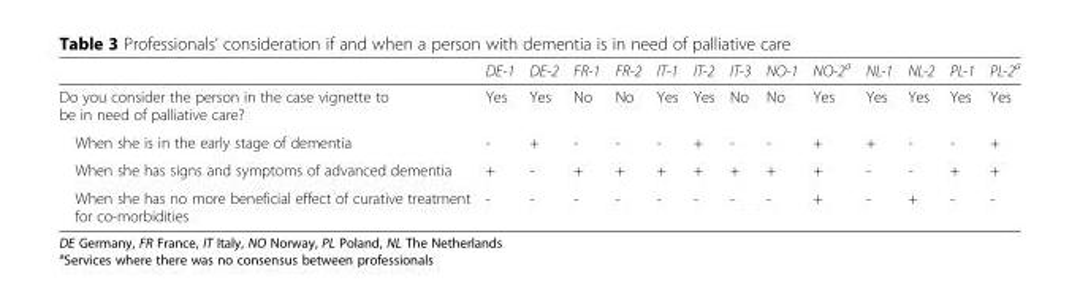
<table><thead><tr><td></td><td>DE-1</td><td>DE-2</td><td>FR-1</td><td>FR-2</td><td>IT-1</td><td>IT-2</td><td>IT-3</td><td>NO-1</td><td>NO-2<sup>a</sup></td><td>NL-1</td><td>NL-2</td><td>PL-1</td><td>PL-2<sup>a</sup></td></tr></thead><tbody><tr><td>Do you consider the person in the case vignette to be in need of palliative care?</td><td>Yes</td><td>Yes</td><td>No</td><td>No</td><td>Yes</td><td>Yes</td><td>No</td><td>No</td><td>Yes</td><td>Yes</td><td>Yes</td><td>Yes</td><td>Yes</td></tr><tr><td>When she is in the early stage of dementia</td><td>-</td><td>+</td><td>-</td><td>-</td><td>-</td><td>+</td><td>-</td><td>-</td><td>+</td><td>+</td><td>-</td><td>-</td><td>+</td></tr><tr><td>When she has signs and symptoms of advanced dementia</td><td>+</td><td>-</td><td>+</td><td>+</td><td>+</td><td>+</td><td>+</td><td>+</td><td>+</td><td>-</td><td>-</td><td>+</td><td>+</td></tr><tr><td>When she has no more beneficial effect of curative treatment for co-morbidities</td><td>-</td><td>-</td><td>-</td><td>-</td><td>-</td><td>-</td><td>-</td><td>-</td><td>+</td><td>-</td><td>+</td><td>-</td><td>-</td></tr></tbody></table>